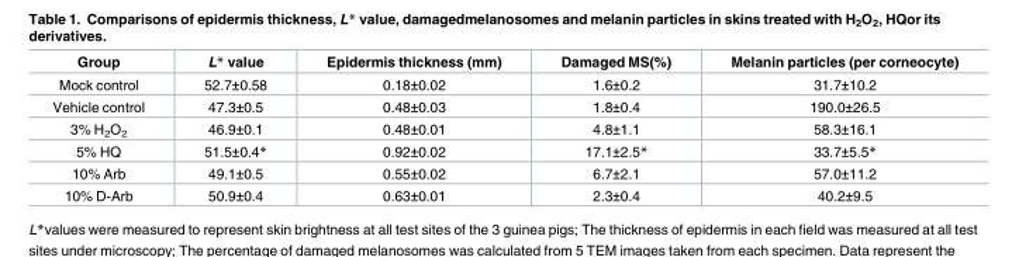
<table><thead><tr><td>Group</td><td>L* value</td><td>Epidermis thickness (mm)</td><td>Damaged MS(%)</td><td>Melanin particles (per corneocyte)</td></tr></thead><tbody><tr><td>Mock control</td><td>52.7±0.58</td><td>0.18±0.02</td><td>1.6±0.2</td><td>31.7±10.2</td></tr><tr><td>Vehicle control</td><td>47.3±0.5</td><td>0.48±0.03</td><td>1.8±0.4</td><td>190.0±26.5</td></tr><tr><td>3% H<sub>2</sub>O<sub>2</sub></td><td>46.9±0.1</td><td>0.48±0.01</td><td>4.8±1.1</td><td>58.3±16.1</td></tr><tr><td>5% HQ</td><td>51.5±0.4*</td><td>0.92±0.02</td><td>17.1±2.5*</td><td>33.7±5.5*</td></tr><tr><td>10% Arb</td><td>49.1±0.5</td><td>0.55±0.02</td><td>6.7±2.1</td><td>57.0±11.2</td></tr><tr><td>10% D-Arb</td><td>50.9±0.4</td><td>0.63±0.01</td><td>2.3±0.4</td><td>40.2±9.5</td></tr></tbody></table>